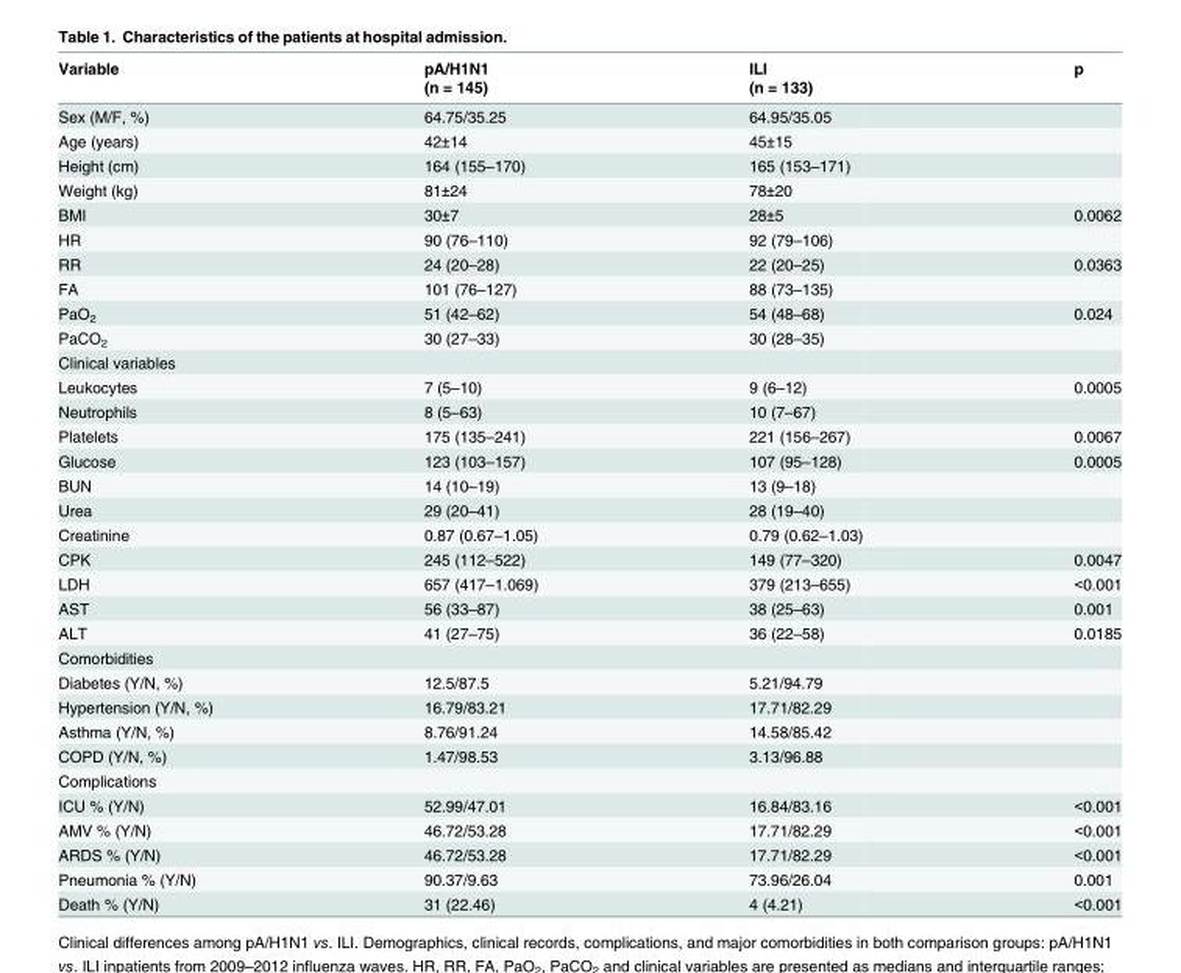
<table><thead><tr><td rowspan="2">Variable</td><td rowspan="2">pA/H1N1 (n = 145)</td><td rowspan="2">ILI (n = 133)</td><td rowspan="2">p</td></tr><tr></tr></thead><tbody><tr><td>Sex (M/F, %)</td><td>64.75/35.25</td><td>64.95/35.05</td><td></td></tr><tr><td>Age (years)</td><td>42±14</td><td>45±15</td><td></td></tr><tr><td>Height (cm)</td><td>164 (155–170)</td><td>165 (153–171)</td><td></td></tr><tr><td>Weight (kg)</td><td>81±24</td><td>78±20</td><td></td></tr><tr><td>BMI</td><td>30±7</td><td>28±5</td><td>0.0062</td></tr><tr><td>HR</td><td>90 (76–110)</td><td>92 (79–106)</td><td></td></tr><tr><td>RR</td><td>24 (20–28)</td><td>22 (20–25)</td><td>0.0363</td></tr><tr><td>FA</td><td>101 (76–127)</td><td>88 (73–135)</td><td></td></tr><tr><td>PaO<sub>2</sub></td><td>51 (42–62)</td><td>54 (48–68)</td><td>0.024</td></tr><tr><td>PaCO<sub>2</sub></td><td>30 (27–33)</td><td>30 (28–35)</td><td></td></tr><tr><td colspan="4">Clinical variables</td></tr><tr><td>Leukocytes</td><td>7 (5–10)</td><td>9 (6–12)</td><td>0.0005</td></tr><tr><td>Neutrophils</td><td>8 (5–63)</td><td>10 (7–67)</td><td></td></tr><tr><td>Platelets</td><td>175 (135–241)</td><td>221 (156–267)</td><td>0.0067</td></tr><tr><td>Glucose</td><td>123 (103–157)</td><td>107 (95–128)</td><td>0.0005</td></tr><tr><td>BUN</td><td>14 (10–19)</td><td>13 (9–18)</td><td></td></tr><tr><td>Urea</td><td>29 (20–41)</td><td>28 (19–40)</td><td></td></tr><tr><td>Creatinine</td><td>0.87 (0.67–1.05)</td><td>0.79 (0.62–1.03)</td><td></td></tr><tr><td>CPK</td><td>245 (112–522)</td><td>149 (77–320)</td><td>0.0047</td></tr><tr><td>LDH</td><td>657 (417–1.069)</td><td>379 (213–655)</td><td>&lt;0.001</td></tr><tr><td>AST</td><td>56 (33–87)</td><td>38 (25–63)</td><td>0.001</td></tr><tr><td>ALT</td><td>41 (27–75)</td><td>36 (22–58)</td><td>0.0185</td></tr><tr><td colspan="4">Comorbidities</td></tr><tr><td>Diabetes (Y/N, %)</td><td>12.5/87.5</td><td>5.21/94.79</td><td></td></tr><tr><td>Hypertension (Y/N, %)</td><td>16.79/83.21</td><td>17.71/82.29</td><td></td></tr><tr><td>Asthma (Y/N, %)</td><td>8.76/91.24</td><td>14.58/85.42</td><td></td></tr><tr><td>COPD (Y/N, %)</td><td>1.47/98.53</td><td>3.13/96.88</td><td></td></tr><tr><td colspan="4">Complications</td></tr><tr><td>ICU % (Y/N)</td><td>52.99/47.01</td><td>16.84/83.16</td><td>&lt;0.001</td></tr><tr><td>AMV % (Y/N)</td><td>46.72/53.28</td><td>17.71/82.29</td><td>&lt;0.001</td></tr><tr><td>ARDS % (Y/N)</td><td>46.72/53.28</td><td>17.71/82.29</td><td>&lt;0.001</td></tr><tr><td>Pneumonia % (Y/N)</td><td>90.37/9.63</td><td>73.96/26.04</td><td>0.001</td></tr><tr><td>Death % (Y/N)</td><td>31 (22.46)</td><td>4 (4.21)</td><td>&lt;0.001</td></tr></tbody></table>